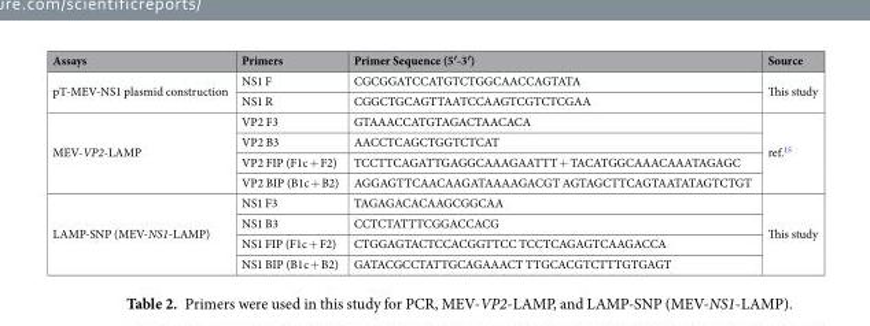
<table><thead><tr><td>Assays</td><td>Primers</td><td>Primer Sequence (5′-3′)</td><td>Source</td></tr></thead><tbody><tr><td rowspan="2">pT-MEV-NS1 plasmid construction</td><td>NS1 F</td><td>CGCGGATCCATGTCTGGCAACCAGTATA</td><td rowspan="2">This study</td></tr><tr><td>NS1 R</td><td>CGGCTGCAGTTAATCCAAGTCGTCTCGAA</td></tr><tr><td rowspan="4">MEV-VP2-LAMP</td><td>VP2 F3</td><td>GTAAACCATGTAGACTAACACA</td><td rowspan="4">ref.<sup>15</sup></td></tr><tr><td>VP2 B3</td><td>AACCTCAGCTGGTCTCAT</td></tr><tr><td>VP2 FIP (F1c + F2)</td><td>TCCTTCAGATTGAGGCAAAGAATTT + TACATGGCAAACAAATAGAGC</td></tr><tr><td>VP2 BIP (B1c + B2)</td><td>AGGAGTTCAACAAGATAAAAGACGT AGTAGCTTCAGTAATATAGTCTGT</td></tr><tr><td rowspan="4">LAMP-SNP (MEV-NS1-LAMP)</td><td>NS1 F3</td><td>TAGAGACACAAGCGGCAA</td><td rowspan="4">This study</td></tr><tr><td>NS1 B3</td><td>CCTCTATTTCGGACCACG</td></tr><tr><td>NS1 FIP (F1c + F2)</td><td>CTGGAGTACTCCACGGTTCC TCCTCAGAGTCAAGACCA</td></tr><tr><td>NS1 BIP (B1c + B2)</td><td>GATACGCCTATTGCAGAAACT TTGCACGTCTTTGTGAGT</td></tr></tbody></table>